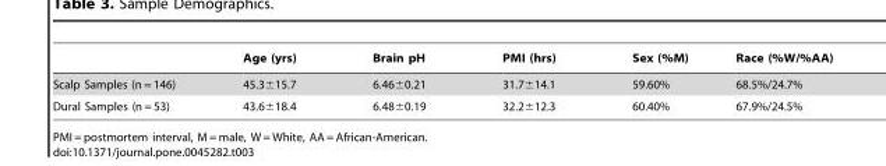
<table><thead><tr><td></td><td>Age (yrs)</td><td>Brain pH</td><td>PMI (hrs)</td><td>Sex (%M)</td><td>Race (%W/%AA)</td></tr></thead><tbody><tr><td>Scalp Samples (n = 146)</td><td>45.3±15.7</td><td>6.46±0.21</td><td>31.7±14.1</td><td>59.60%</td><td>68.5%/24.7%</td></tr><tr><td>Dural Samples (n = 53)</td><td>43.6±18.4</td><td>6.48±0.19</td><td>32.2±12.3</td><td>60.40%</td><td>67.9%/24.5%</td></tr></tbody></table>